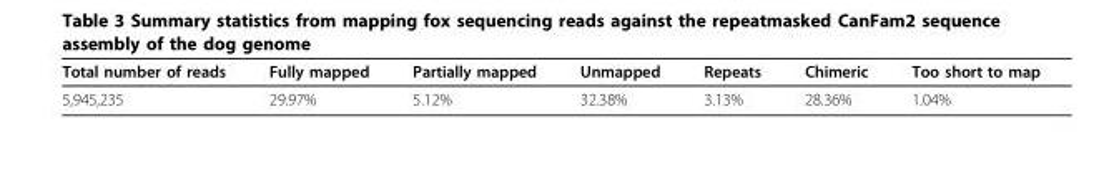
<table><thead><tr><td>Total number of reads</td><td>Fully mapped</td><td>Partially mapped</td><td>Unmapped</td><td>Repeats</td><td>Chimeric</td><td>Too short to map</td></tr></thead><tbody><tr><td>5,945,235</td><td>29.97%</td><td>5.12%</td><td>32.38%</td><td>3.13%</td><td>28.36%</td><td>1.04%</td></tr></tbody></table>